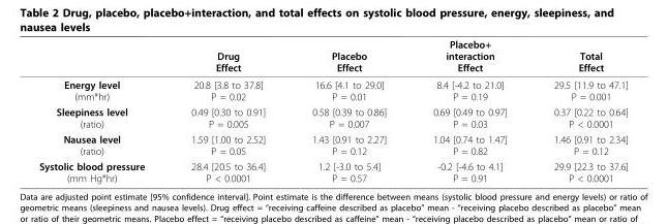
<table><thead><tr><td></td><td>Drug Effect</td><td>Placebo Effect</td><td>Placebo+ interaction Effect</td><td>Total Effect</td></tr></thead><tbody><tr><td>Energy level (mm*hr)</td><td>20.8 [3.8 to 37.8] P = 0.02</td><td>16.6 [4.1 to 29.0] P = 0.01</td><td>8.4 [-4.2 to 21.0] P = 0.19</td><td>29.5 [11.9 to 47.1] P = 0.001</td></tr><tr><td>Sleepiness level (ratio)</td><td>0.49 [0.30 to 0.91] P = 0.005</td><td>0.58 [0.39 to 0.86] P = 0.007</td><td>0.69 [0.49 to 0.97] P = 0.03</td><td>0.37 [0.22 to 0.64] P &lt; 0.0001</td></tr><tr><td>Nausea level (ratio)</td><td>1.59 [1.00 to 2.52] P = 0.05</td><td>1.43 [0.91 to 2.27] P = 0.12</td><td>1.04 [0.74 to 1.47] P = 0.82</td><td>1.46 [0.91 to 2.34] P = 0.12</td></tr><tr><td>Systolic blood pressure (mm Hg*hr)</td><td>28.4 [20.5 to 36.4] P &lt; 0.0001</td><td>1.2 [-3.0 to 5.4] P = 0.57</td><td>-0.2 [-4.6 to 4.1] P = 0.91</td><td>29.9 [22.3 to 37.6] P &lt; 0.0001</td></tr></tbody></table>